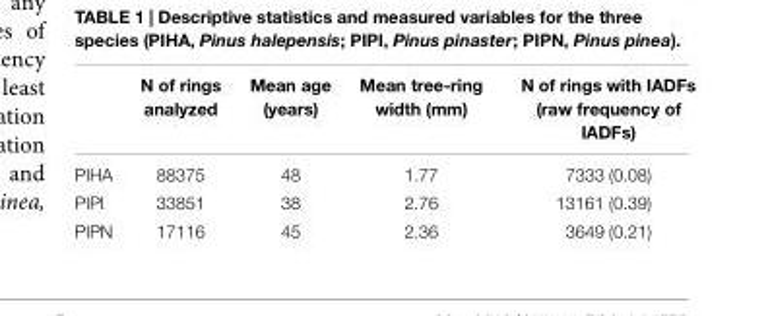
<table><thead><tr><td></td><td>N of rings analyzed</td><td>Mean age (years)</td><td>Mean tree-ring width (mm)</td><td>N of rings with IADFs (raw frequency of IADFs)</td></tr></thead><tbody><tr><td>PIHA</td><td>88375</td><td>48</td><td>1.77</td><td>7333 (0.08)</td></tr><tr><td>PIPI</td><td>33851</td><td>38</td><td>2.76</td><td>13161 (0.39)</td></tr><tr><td>PIPN</td><td>17116</td><td>45</td><td>2.36</td><td>3649 (0.21)</td></tr></tbody></table>